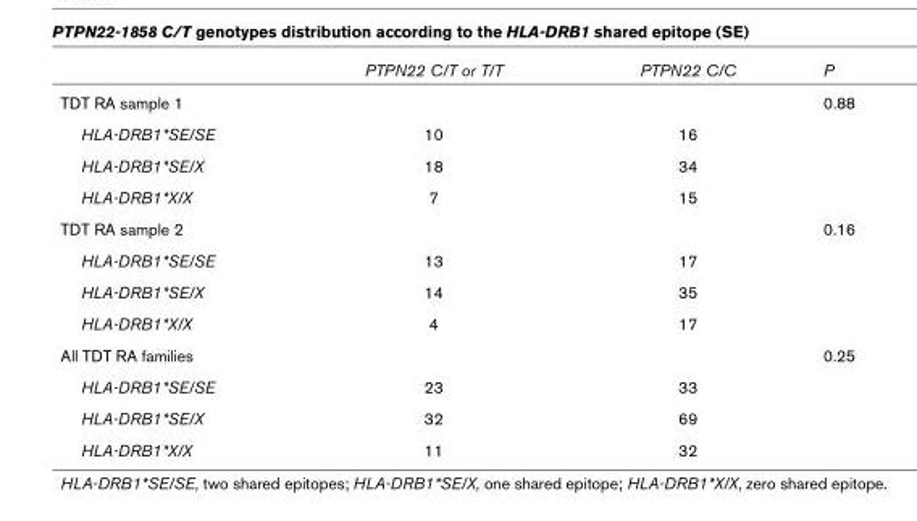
<table><thead><tr><td></td><td>PTPN22 C/T or T/T</td><td>PTPN22 C/C</td><td>P</td></tr></thead><tbody><tr><td>TDT RA sample 1</td><td></td><td></td><td>0.88</td></tr><tr><td>HLA-DRB1*SE/SE</td><td>10</td><td>16</td><td></td></tr><tr><td>HLA-DRB1*SE/X</td><td>18</td><td>34</td><td></td></tr><tr><td>HLA-DRB1*X/X</td><td>7</td><td>15</td><td></td></tr><tr><td>TDT RA sample 2</td><td></td><td></td><td>0.16</td></tr><tr><td>HLA-DRB1*SE/SE</td><td>13</td><td>17</td><td></td></tr><tr><td>HLA-DRB1*SE/X</td><td>14</td><td>35</td><td></td></tr><tr><td>HLA-DRB1*X/X</td><td>4</td><td>17</td><td></td></tr><tr><td>All TDT RA families</td><td></td><td></td><td>0.25</td></tr><tr><td>HLA-DRB1*SE/SE</td><td>23</td><td>33</td><td></td></tr><tr><td>HLA-DRB1*SE/X</td><td>32</td><td>69</td><td></td></tr><tr><td>HLA-DRB1*X/X</td><td>11</td><td>32</td><td></td></tr></tbody></table>